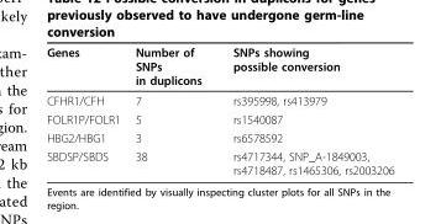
<table><thead><tr><td>Genes</td><td>Number of SNPs in duplicons</td><td>SNPs showing possible conversion</td></tr></thead><tbody><tr><td>CFHR1/CFH</td><td>7</td><td>rs395998, rs413979</td></tr><tr><td>FOLR1P/FOLR1</td><td>5</td><td>rs1540087</td></tr><tr><td>HBG2/HBG1</td><td>3</td><td>rs6578592</td></tr><tr><td>SBDSP/SBDS</td><td>38</td><td>rs4717344, SNP_A-1849003, rs4718487, rs1465306, rs2003206</td></tr></tbody></table>